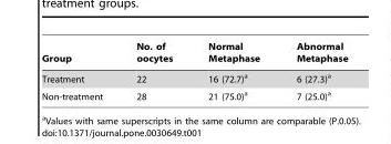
<table><thead><tr><td>Group</td><td>No. of oocytes</td><td>Normal Metaphase</td><td>Abnormal Metaphase</td></tr></thead><tbody><tr><td>Treatment</td><td>22</td><td>16 (72.7)<sup>a</sup></td><td>6 (27.3)<sup>a</sup></td></tr><tr><td>Non-treatment</td><td>28</td><td>21 (75.0)<sup>a</sup></td><td>7 (25.0)<sup>a</sup></td></tr></tbody></table>